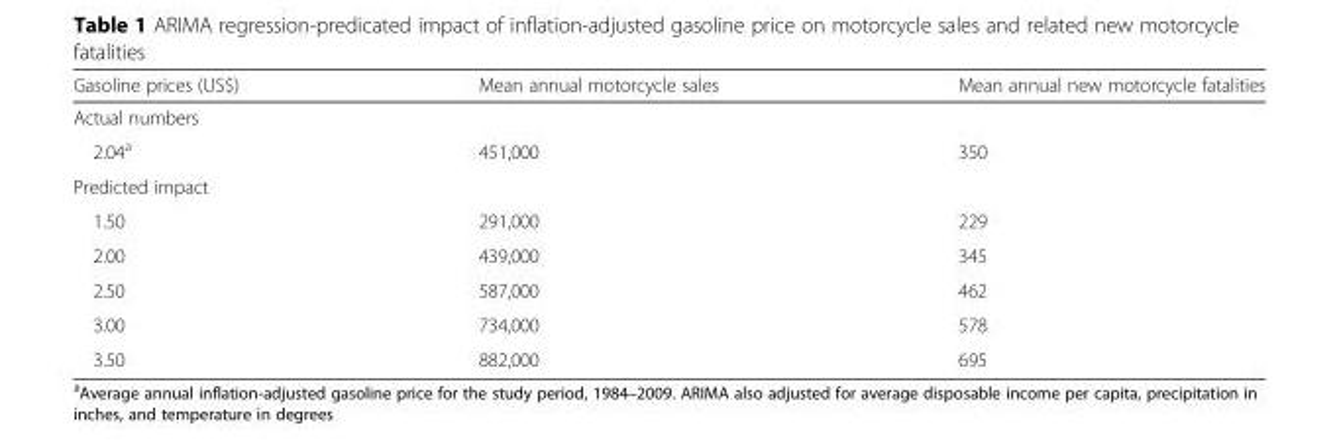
<table><thead><tr><td>Gasoline prices (US$)</td><td>Mean annual motorcycle sales</td><td>Mean annual new motorcycle fatalities</td></tr></thead><tbody><tr><td colspan="3">Actual numbers</td></tr><tr><td>2.04<sup>a</sup></td><td>451,000</td><td>350</td></tr><tr><td colspan="3">Predicted impact</td></tr><tr><td>1.50</td><td>291,000</td><td>229</td></tr><tr><td>2.00</td><td>439,000</td><td>345</td></tr><tr><td>2.50</td><td>587,000</td><td>462</td></tr><tr><td>3.00</td><td>734,000</td><td>578</td></tr><tr><td>3.50</td><td>882,000</td><td>695</td></tr></tbody></table>